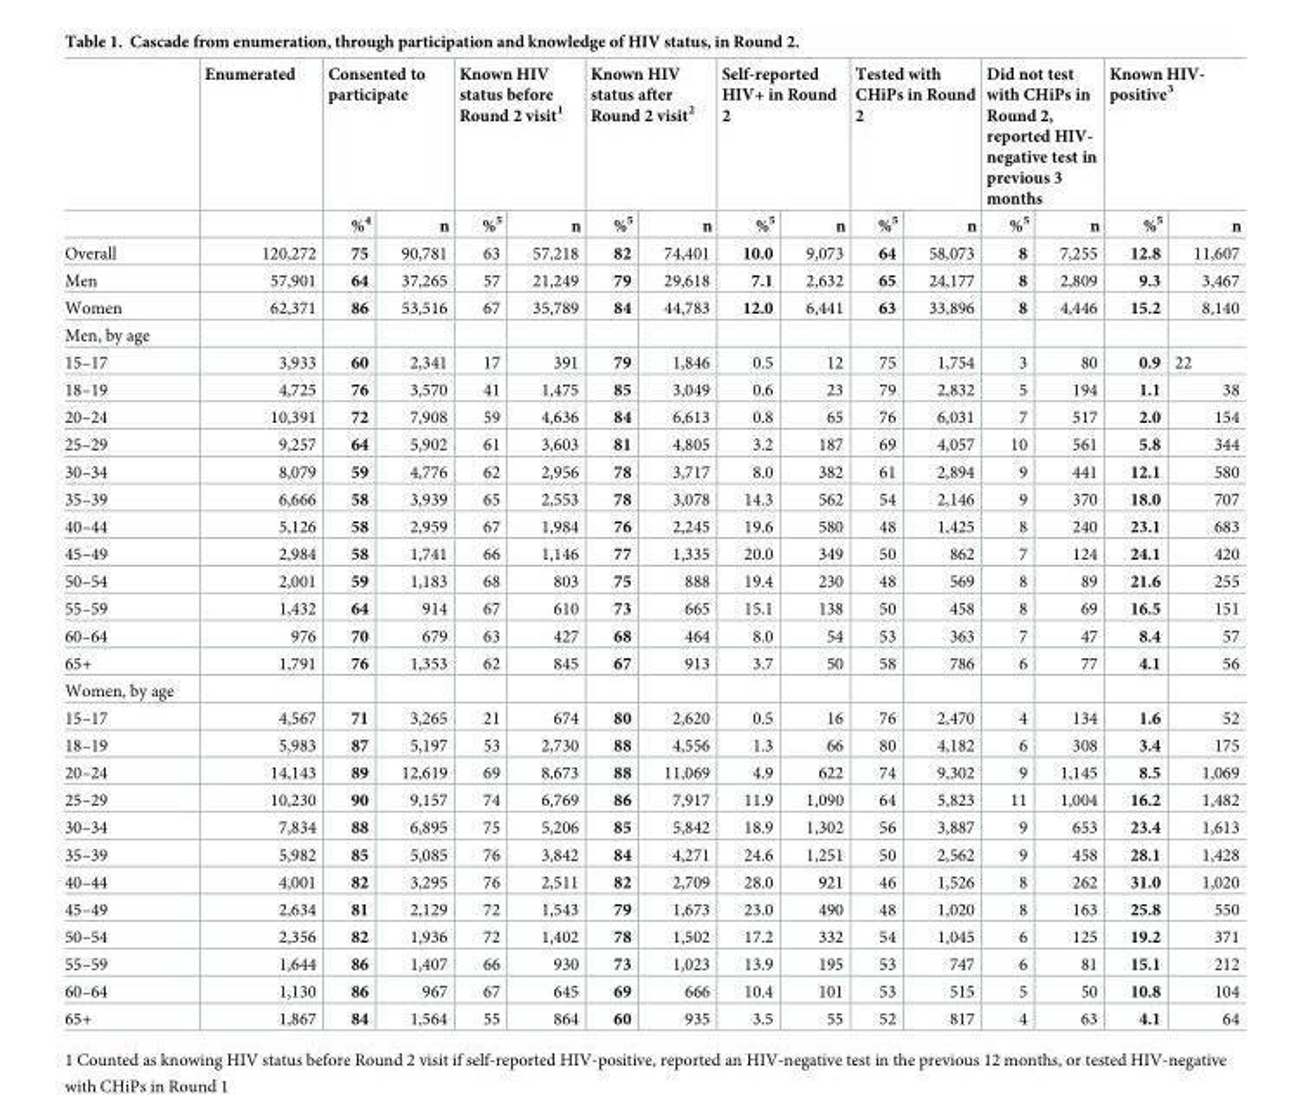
<table><thead><tr><td rowspan="2"></td><td rowspan="2">Enumerated</td><td colspan="2">Consented to participate</td><td colspan="2">Known HIV status before Round 2 visit<sup>1</sup></td><td colspan="2">Known HIV status after Round 2 visit<sup>2</sup></td><td colspan="2">Self-reported HIV+ in Round 2</td><td colspan="2">Tested with CHiPs in Round 2</td><td colspan="2">Did not test with CHiPs in Round 2, reported HIV- negative test in previous 3 months</td><td colspan="2">Known HIV- positive<sup>3</sup></td></tr><tr><td>%<sup>4</sup></td><td>n</td><td>%<sup>5</sup></td><td>n</td><td>%<sup>5</sup></td><td>n</td><td>%<sup>5</sup></td><td>n</td><td>%<sup>5</sup></td><td>n</td><td>%<sup>5</sup></td><td>n</td><td>%<sup>5</sup></td><td>n</td></tr></thead><tbody><tr><td>Overall</td><td>120,272</td><td>75</td><td>90,781</td><td>63</td><td>57,218</td><td>82</td><td>74,401</td><td>10.0</td><td>9,073</td><td>64</td><td>58,073</td><td>8</td><td>7,255</td><td>12.8</td><td>11,607</td></tr><tr><td>Men</td><td>57,901</td><td>64</td><td>37,265</td><td>57</td><td>21,249</td><td>79</td><td>29,618</td><td>7.1</td><td>2,632</td><td>65</td><td>24,177</td><td>8</td><td>2,809</td><td>9.3</td><td>3,467</td></tr><tr><td>Women</td><td>62,371</td><td>86</td><td>53,516</td><td>67</td><td>35,789</td><td>84</td><td>44,783</td><td>12.0</td><td>6,441</td><td>63</td><td>33,896</td><td>8</td><td>4,446</td><td>15.2</td><td>8,140</td></tr><tr><td colspan="16">Men, by age</td></tr><tr><td>15–17</td><td>3,933</td><td>60</td><td>2,341</td><td>17</td><td>391</td><td>79</td><td>1,846</td><td>0.5</td><td>12</td><td>75</td><td>1,754</td><td>3</td><td>80</td><td>0.9</td><td>22</td></tr><tr><td>18–19</td><td>4,725</td><td>76</td><td>3,570</td><td>41</td><td>1,475</td><td>85</td><td>3,049</td><td>0.6</td><td>23</td><td>79</td><td>2,832</td><td>5</td><td>194</td><td>1.1</td><td>38</td></tr><tr><td>20–24</td><td>10,391</td><td>72</td><td>7,908</td><td>59</td><td>4,636</td><td>84</td><td>6,613</td><td>0.8</td><td>65</td><td>76</td><td>6,031</td><td>7</td><td>517</td><td>2.0</td><td>154</td></tr><tr><td>25–29</td><td>9,257</td><td>64</td><td>5,902</td><td>61</td><td>3,603</td><td>81</td><td>4,805</td><td>3.2</td><td>187</td><td>69</td><td>4,057</td><td>10</td><td>561</td><td>5.8</td><td>344</td></tr><tr><td>30–34</td><td>8,079</td><td>59</td><td>4,776</td><td>62</td><td>2,956</td><td>78</td><td>3,717</td><td>8.0</td><td>382</td><td>61</td><td>2,894</td><td>9</td><td>441</td><td>12.1</td><td>580</td></tr><tr><td>35–39</td><td>6,666</td><td>58</td><td>3,939</td><td>65</td><td>2,553</td><td>78</td><td>3,078</td><td>14.3</td><td>562</td><td>54</td><td>2,146</td><td>9</td><td>370</td><td>18.0</td><td>707</td></tr><tr><td>40–44</td><td>5,126</td><td>58</td><td>2,959</td><td>67</td><td>1,984</td><td>76</td><td>2,245</td><td>19.6</td><td>580</td><td>48</td><td>1,425</td><td>8</td><td>240</td><td>23.1</td><td>683</td></tr><tr><td>45–49</td><td>2,984</td><td>58</td><td>1,741</td><td>66</td><td>1,146</td><td>77</td><td>1,335</td><td>20.0</td><td>349</td><td>50</td><td>862</td><td>7</td><td>124</td><td>24.1</td><td>420</td></tr><tr><td>50–54</td><td>2,001</td><td>59</td><td>1,183</td><td>68</td><td>803</td><td>75</td><td>888</td><td>19.4</td><td>230</td><td>48</td><td>569</td><td>8</td><td>89</td><td>21.6</td><td>255</td></tr><tr><td>55–59</td><td>1,432</td><td>64</td><td>914</td><td>67</td><td>610</td><td>73</td><td>665</td><td>15.1</td><td>138</td><td>50</td><td>458</td><td>8</td><td>69</td><td>16.5</td><td>151</td></tr><tr><td>60–64</td><td>976</td><td>70</td><td>679</td><td>63</td><td>427</td><td>68</td><td>464</td><td>8.0</td><td>54</td><td>53</td><td>363</td><td>7</td><td>47</td><td>8.4</td><td>57</td></tr><tr><td>65+</td><td>1,791</td><td>76</td><td>1,353</td><td>62</td><td>845</td><td>67</td><td>913</td><td>3.7</td><td>50</td><td>58</td><td>786</td><td>6</td><td>77</td><td>4.1</td><td>56</td></tr><tr><td colspan="16">Women, by age</td></tr><tr><td>15–17</td><td>4,567</td><td>71</td><td>3,265</td><td>21</td><td>674</td><td>80</td><td>2,620</td><td>0.5</td><td>16</td><td>76</td><td>2,470</td><td>4</td><td>134</td><td>1.6</td><td>52</td></tr><tr><td>18–19</td><td>5,983</td><td>87</td><td>5,197</td><td>53</td><td>2,730</td><td>88</td><td>4,556</td><td>1.3</td><td>66</td><td>80</td><td>4,182</td><td>6</td><td>308</td><td>3.4</td><td>175</td></tr><tr><td>20–24</td><td>14,143</td><td>89</td><td>12,619</td><td>69</td><td>8,673</td><td>88</td><td>11,069</td><td>4.9</td><td>622</td><td>74</td><td>9,302</td><td>9</td><td>1,145</td><td>8.5</td><td>1,069</td></tr><tr><td>25–29</td><td>10,230</td><td>90</td><td>9,157</td><td>74</td><td>6,769</td><td>86</td><td>7,917</td><td>11.9</td><td>1,090</td><td>64</td><td>5,823</td><td>11</td><td>1,004</td><td>16.2</td><td>1,482</td></tr><tr><td>30–34</td><td>7,834</td><td>88</td><td>6,895</td><td>75</td><td>5,206</td><td>85</td><td>5,842</td><td>18.9</td><td>1,302</td><td>56</td><td>3,887</td><td>9</td><td>653</td><td>23.4</td><td>1,613</td></tr><tr><td>35–39</td><td>5,982</td><td>85</td><td>5,085</td><td>76</td><td>3,842</td><td>84</td><td>4,271</td><td>24.6</td><td>1,251</td><td>50</td><td>2,562</td><td>9</td><td>458</td><td>28.1</td><td>1,428</td></tr><tr><td>40–44</td><td>4,001</td><td>82</td><td>3,295</td><td>76</td><td>2,511</td><td>82</td><td>2,709</td><td>28.0</td><td>921</td><td>46</td><td>1,526</td><td>8</td><td>262</td><td>31.0</td><td>1,020</td></tr><tr><td>45–49</td><td>2,634</td><td>81</td><td>2,129</td><td>72</td><td>1,543</td><td>79</td><td>1,673</td><td>23.0</td><td>490</td><td>48</td><td>1,020</td><td>8</td><td>163</td><td>25.8</td><td>550</td></tr><tr><td>50–54</td><td>2,356</td><td>82</td><td>1,936</td><td>72</td><td>1,402</td><td>78</td><td>1,502</td><td>17.2</td><td>332</td><td>54</td><td>1,045</td><td>6</td><td>125</td><td>19.2</td><td>371</td></tr><tr><td>55–59</td><td>1,644</td><td>86</td><td>1,407</td><td>66</td><td>930</td><td>73</td><td>1,023</td><td>13.9</td><td>195</td><td>53</td><td>747</td><td>6</td><td>81</td><td>15.1</td><td>212</td></tr><tr><td>60–64</td><td>1,130</td><td>86</td><td>967</td><td>67</td><td>645</td><td>69</td><td>666</td><td>10.4</td><td>101</td><td>53</td><td>515</td><td>5</td><td>50</td><td>10.8</td><td>104</td></tr><tr><td>65+</td><td>1,867</td><td>84</td><td>1,564</td><td>55</td><td>864</td><td>60</td><td>935</td><td>3.5</td><td>55</td><td>52</td><td>817</td><td>4</td><td>63</td><td>4.1</td><td>64</td></tr></tbody></table>